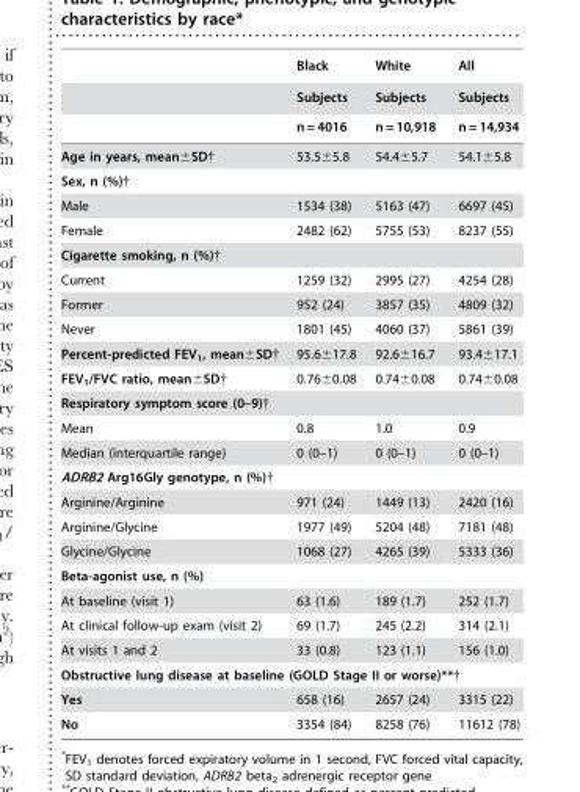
<table><thead><tr><td rowspan="3"></td><td rowspan="3">Black Subjects n = 4016</td><td rowspan="3">White Subjects n = 10,918</td><td rowspan="3">All Subjects n = 14,934</td></tr><tr></tr><tr></tr></thead><tbody><tr><td>Age in years, mean±SD†</td><td>53.5±5.8</td><td>54.4±5.7</td><td>54.1±5.8</td></tr><tr><td colspan="4">Sex, n (%)†</td></tr><tr><td>Male</td><td>1534 (38)</td><td>5163 (47)</td><td>6697 (45)</td></tr><tr><td>Female</td><td>2482 (62)</td><td>5755 (53)</td><td>8237 (55)</td></tr><tr><td colspan="4">Cigarette smoking, n (%)†</td></tr><tr><td>Current</td><td>1259 (32)</td><td>2995 (27)</td><td>4254 (28)</td></tr><tr><td>Former</td><td>952 (24)</td><td>3857 (35)</td><td>4809 (32)</td></tr><tr><td>Never</td><td>1801 (45)</td><td>4060 (37)</td><td>5861 (39)</td></tr><tr><td>Percent-predicted FEV<sub>1</sub>, mean±SD†</td><td>95.6±17.8</td><td>92.6±16.7</td><td>93.4±17.1</td></tr><tr><td>FEV<sub>1</sub>/FVC ratio, mean±SD†</td><td>0.76±0.08</td><td>0.74±0.08</td><td>0.74±0.08</td></tr><tr><td colspan="4">Respiratory symptom score (0–9)†</td></tr><tr><td>Mean</td><td>0.8</td><td>1.0</td><td>0.9</td></tr><tr><td>Median (interquartile range)</td><td>0 (0–1)</td><td>0 (0–1)</td><td>0 (0–1)</td></tr><tr><td colspan="4">ADRB2 Arg16Gly genotype, n (%)†</td></tr><tr><td>Arginine/Arginine</td><td>971 (24)</td><td>1449 (13)</td><td>2420 (16)</td></tr><tr><td>Arginine/Glycine</td><td>1977 (49)</td><td>5204 (48)</td><td>7181 (48)</td></tr><tr><td>Glycine/Glycine</td><td>1068 (27)</td><td>4265 (39)</td><td>5333 (36)</td></tr><tr><td colspan="4">Beta-agonist use, n (%)</td></tr><tr><td>At baseline (visit 1)</td><td>63 (1.6)</td><td>189 (1.7)</td><td>252 (1.7)</td></tr><tr><td>At clinical follow-up exam (visit 2)</td><td>69 (1.7)</td><td>245 (2.2)</td><td>314 (2.1)</td></tr><tr><td>At visits 1 and 2</td><td>33 (0.8)</td><td>123 (1.1)</td><td>156 (1.0)</td></tr><tr><td colspan="4">Obstructive lung disease at baseline (GOLD Stage II or worse)**†</td></tr><tr><td>Yes</td><td>658 (16)</td><td>2657 (24)</td><td>3315 (22)</td></tr><tr><td>No</td><td>3354 (84)</td><td>8258 (76)</td><td>11612 (78)</td></tr></tbody></table>